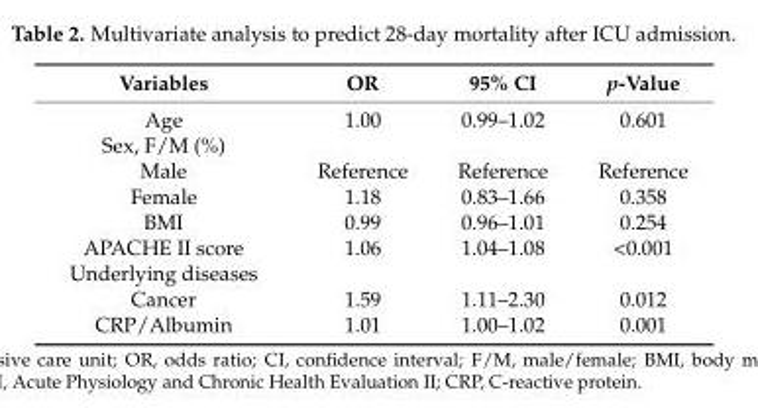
<table><thead><tr><td>Variables</td><td>OR</td><td>95% CI</td><td>p-Value</td></tr></thead><tbody><tr><td>Age</td><td>1.00</td><td>0.99–1.02</td><td>0.601</td></tr><tr><td colspan="4">Sex, F/M (%)</td></tr><tr><td>Male</td><td>Reference</td><td>Reference</td><td>Reference</td></tr><tr><td>Female</td><td>1.18</td><td>0.83–1.66</td><td>0.358</td></tr><tr><td>BMI</td><td>0.99</td><td>0.96–1.01</td><td>0.254</td></tr><tr><td>APACHE II score</td><td>1.06</td><td>1.04–1.08</td><td>&lt;0.001</td></tr><tr><td colspan="4">Underlying diseases</td></tr><tr><td>Cancer</td><td>1.59</td><td>1.11–2.30</td><td>0.012</td></tr><tr><td>CRP/Albumin</td><td>1.01</td><td>1.00–1.02</td><td>0.001</td></tr></tbody></table>